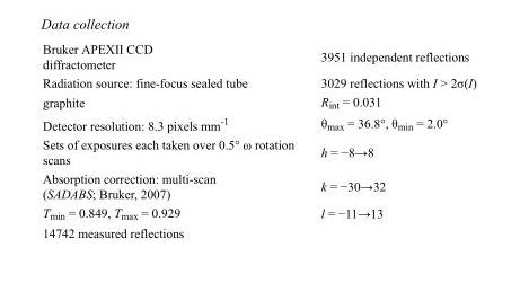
<table><tbody><tr><td>Bruker APEXII CCD diffractometer</td><td>3951 independent reflections</td></tr><tr><td>Radiation source: fine-focus sealed tube</td><td>3029 reflections with I &gt; 2σ(I)</td></tr><tr><td>graphite</td><td>R<sub>int</sub> = 0.031</td></tr><tr><td>Detector resolution: 8.3 pixels mm<sup>-1</sup></td><td>θ<sub>max</sub> = 36.8°, θ<sub>min</sub> = 2.0°</td></tr><tr><td>Sets of exposures each taken over 0.5° ω rotation scans</td><td>h = −8→8</td></tr><tr><td>Absorption correction: multi-scan (SADABS; Bruker, 2007)</td><td>k = −30→32</td></tr><tr><td>T<sub>min</sub> = 0.849, T<sub>max</sub> = 0.929</td><td>l = −11→13</td></tr><tr><td>14742 measured reflections</td><td></td></tr></tbody></table>